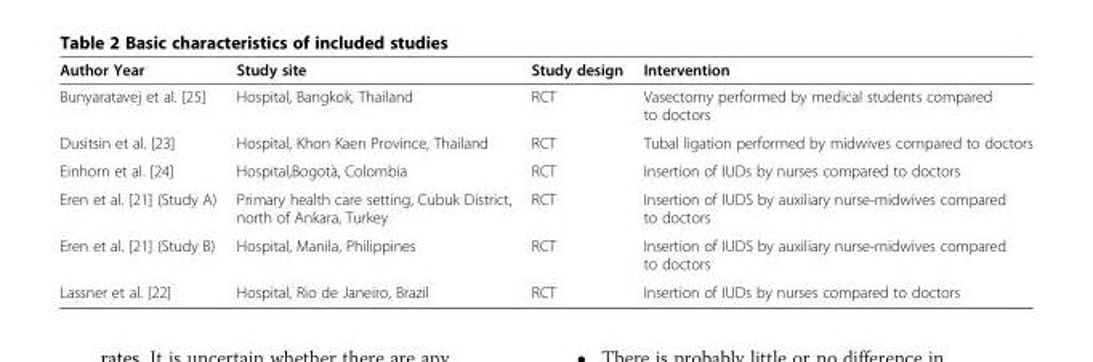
<table><thead><tr><td>Author Year</td><td>Study site</td><td>Study design</td><td>Intervention</td></tr></thead><tbody><tr><td>Bunyaratavej et al. [25]</td><td>Hospital, Bangkok, Thailand</td><td>RCT</td><td>Vasectomy performed by medical students compared to doctors</td></tr><tr><td>Dusitsin et al. [23]</td><td>Hospital, Khon Kaen Province, Thailand</td><td>RCT</td><td>Tubal ligation performed by midwives compared to doctors</td></tr><tr><td>Einhorn et al. [24]</td><td>Hospital,Bogotà, Colombia</td><td>RCT</td><td>Insertion of IUDs by nurses compared to doctors</td></tr><tr><td>Eren et al. [21] (Study A)</td><td>Primary health care setting, Cubuk District, north of Ankara, Turkey</td><td>RCT</td><td>Insertion of IUDS by auxiliary nurse-midwives compared to doctors</td></tr><tr><td>Eren et al. [21] (Study B)</td><td>Hospital, Manila, Philippines</td><td>RCT</td><td>Insertion of IUDS by auxiliary nurse-midwives compared to doctors</td></tr><tr><td>Lassner et al. [22]</td><td>Hospital, Rio de Janeiro, Brazil</td><td>RCT</td><td>Insertion of IUDs by nurses compared to doctors</td></tr></tbody></table>